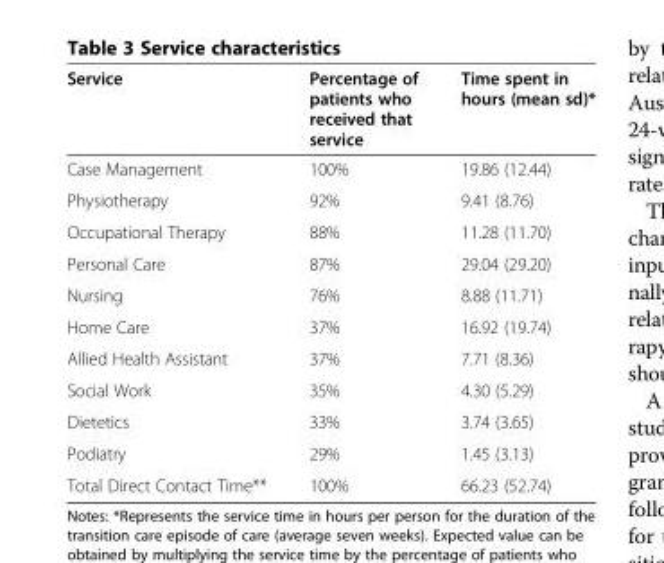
<table><thead><tr><td>Service</td><td>Percentage of patients who received that service</td><td>Time spent in hours (mean sd)*</td></tr></thead><tbody><tr><td>Case Management</td><td>100%</td><td>19.86 (12.44)</td></tr><tr><td>Physiotherapy</td><td>92%</td><td>9.41 (8.76)</td></tr><tr><td>Occupational Therapy</td><td>88%</td><td>11.28 (11.70)</td></tr><tr><td>Personal Care</td><td>87%</td><td>29.04 (29.20)</td></tr><tr><td>Nursing</td><td>76%</td><td>8.88 (11.71)</td></tr><tr><td>Home Care</td><td>37%</td><td>16.92 (19.74)</td></tr><tr><td>Allied Health Assistant</td><td>37%</td><td>7.71 (8.36)</td></tr><tr><td>Social Work</td><td>35%</td><td>4.30 (5.29)</td></tr><tr><td>Dietetics</td><td>33%</td><td>3.74 (3.65)</td></tr><tr><td>Podiatry</td><td>29%</td><td>1.45 (3.13)</td></tr><tr><td>Total Direct Contact Time**</td><td>100%</td><td>66.23 (52.74)</td></tr></tbody></table>